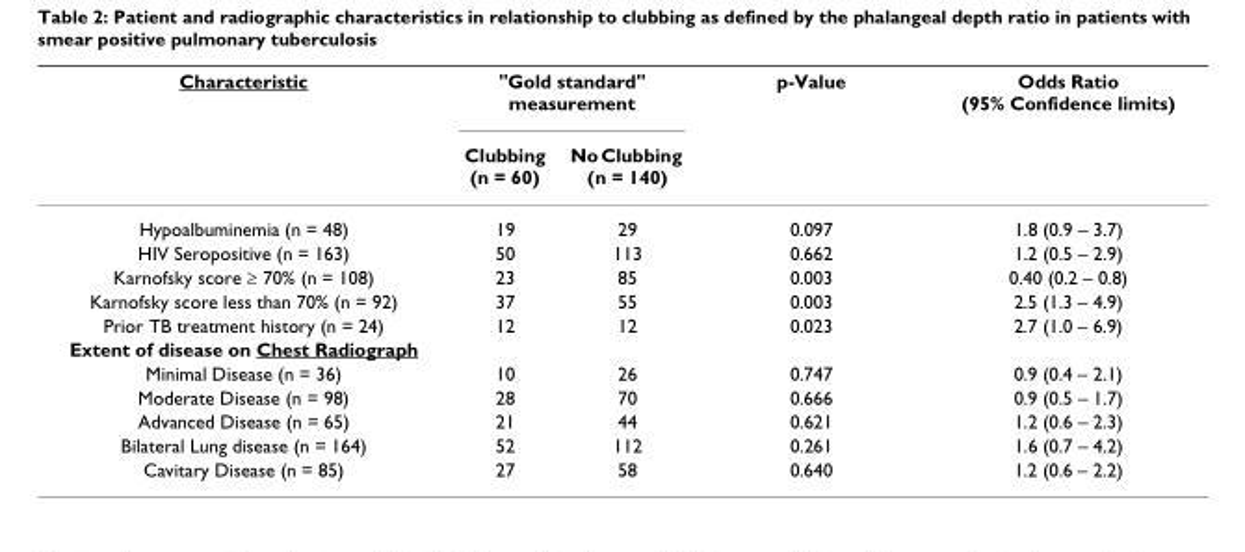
<table><thead><tr><td rowspan="2">Characteristic</td><td colspan="2">&quot;Gold standard&quot; measurement</td><td rowspan="2">p-Value</td><td rowspan="2">Odds Ratio (95% Confidence limits)</td></tr><tr><td>Clubbing (n = 60)</td><td>No Clubbing (n = 140)</td></tr></thead><tbody><tr><td>Hypoalbuminemia (n = 48)</td><td>19</td><td>29</td><td>0.097</td><td>1.8 (0.9 – 3.7)</td></tr><tr><td>HIV Seropositive (n = 163)</td><td>50</td><td>113</td><td>0.662</td><td>1.2 (0.5 – 2.9)</td></tr><tr><td>Karnofsky score ≥ 70% (n = 108)</td><td>23</td><td>85</td><td>0.003</td><td>0.40 (0.2 – 0.8)</td></tr><tr><td>Karnofsky score less than 70% (n = 92)</td><td>37</td><td>55</td><td>0.003</td><td>2.5 (1.3 – 4.9)</td></tr><tr><td>Prior TB treatment history (n = 24)</td><td>12</td><td>12</td><td>0.023</td><td>2.7 (1.0 – 6.9)</td></tr><tr><td colspan="5">Extent of disease on Chest Radiograph</td></tr><tr><td>Minimal Disease (n = 36)</td><td>10</td><td>26</td><td>0.747</td><td>0.9 (0.4 – 2.1)</td></tr><tr><td>Moderate Disease (n = 98)</td><td>28</td><td>70</td><td>0.666</td><td>0.9 (0.5 – 1.7)</td></tr><tr><td>Advanced Disease (n = 65)</td><td>21</td><td>44</td><td>0.621</td><td>1.2 (0.6 – 2.3)</td></tr><tr><td>Bilateral Lung disease (n = 164)</td><td>52</td><td>112</td><td>0.261</td><td>1.6 (0.7 – 4.2)</td></tr><tr><td>Cavitary Disease (n = 85)</td><td>27</td><td>58</td><td>0.640</td><td>1.2 (0.6 – 2.2)</td></tr></tbody></table>